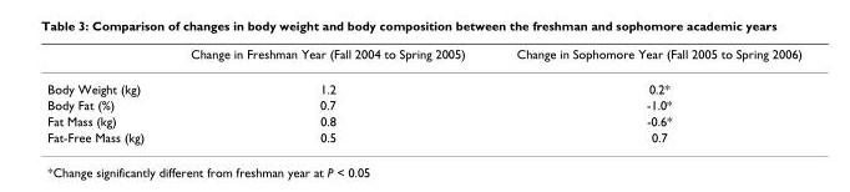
<table><thead><tr><td></td><td>Change in Freshman Year (Fall 2004 to Spring 2005)</td><td>Change in Sophomore Year (Fall 2005 to Spring 2006)</td></tr></thead><tbody><tr><td>Body Weight (kg)</td><td>1.2</td><td>0.2*</td></tr><tr><td>Body Fat (%)</td><td>0.7</td><td>-1.0*</td></tr><tr><td>Fat Mass (kg)</td><td>0.8</td><td>-0.6*</td></tr><tr><td>Fat-Free Mass (kg)</td><td>0.5</td><td>0.7</td></tr></tbody></table>